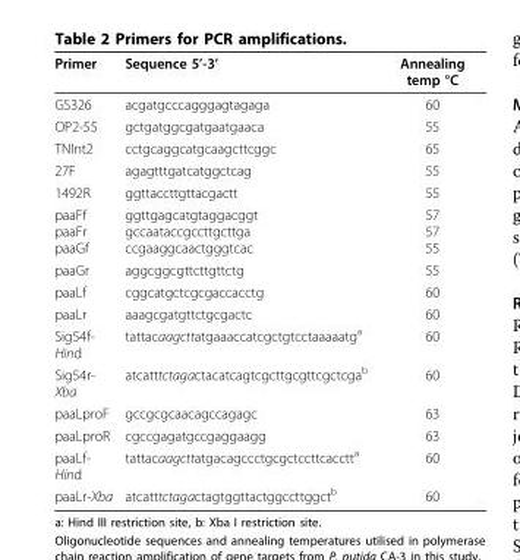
<table><thead><tr><td>Primer</td><td>Sequence 5’-3’</td><td>Annealing temp °C</td></tr></thead><tbody><tr><td>GS326</td><td>acgatgcccagggagtagaga</td><td>60</td></tr><tr><td>OP2-55</td><td>gctgatggcgatgaatgaaca</td><td>55</td></tr><tr><td>TNInt2</td><td>cctgcaggcatgcaagcttcggc</td><td>65</td></tr><tr><td>27F</td><td>agagtttgatcatggctcag</td><td>55</td></tr><tr><td>1492R</td><td>ggttaccttgttacgactt</td><td>55</td></tr><tr><td>paaFf paaFr paaGf</td><td>ggttgagcatgtaggacggt gccaataccgccttgcttga ccgaaggcaactgggtcac</td><td>57 57 55</td></tr><tr><td>paaGr</td><td>aggcggcgttcttgttctg</td><td>55</td></tr><tr><td>paaLf</td><td>cggcatgctcgcgaccacctg</td><td>60</td></tr><tr><td>paaLr</td><td>aaagcgatgttctgcgactc</td><td>60</td></tr><tr><td>Sig54f- Hind</td><td>tattacaagcttatgaaaccatcgctgtcctaaaaatg<sup>a</sup></td><td>60</td></tr><tr><td>Sig54r- Xba</td><td>atcatttctagactacatcagtcgcttgcgttcgctcga<sup>b</sup></td><td>60</td></tr><tr><td>paaLproF</td><td>gccgcgcaacagccagagc</td><td>63</td></tr><tr><td>paaLproR</td><td>cgccgagatgccgaggaagg</td><td>63</td></tr><tr><td>paaLf- Hind</td><td>tattacaagcttatgacagccctgcgctccttcacctt<sup>a</sup></td><td>60</td></tr><tr><td>paaLr-Xba</td><td>atcatttctagactagtggttactggccttggct<sup>b</sup></td><td>60</td></tr></tbody></table>